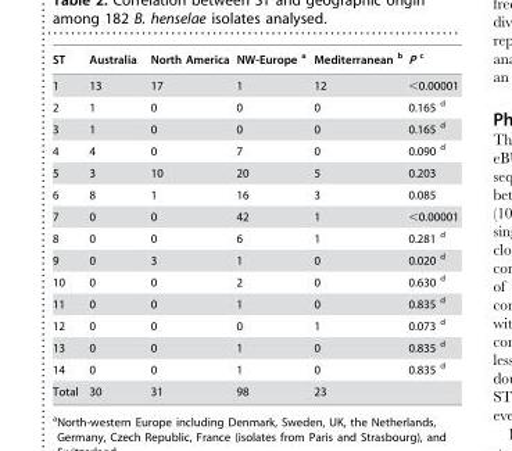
<table><thead><tr><td>ST</td><td>Australia</td><td>North America</td><td>NW-Europe a</td><td>Mediterranean b</td><td>P c</td></tr></thead><tbody><tr><td>1</td><td>13</td><td>17</td><td>1</td><td>12</td><td>&lt;0.00001</td></tr><tr><td>2</td><td>1</td><td>0</td><td>0</td><td>0</td><td>0.165 d</td></tr><tr><td>3</td><td>1</td><td>0</td><td>0</td><td>0</td><td>0.165 d</td></tr><tr><td>4</td><td>4</td><td>0</td><td>7</td><td>0</td><td>0.090 d</td></tr><tr><td>5</td><td>3</td><td>10</td><td>20</td><td>5</td><td>0.203</td></tr><tr><td>6</td><td>8</td><td>1</td><td>16</td><td>3</td><td>0.085</td></tr><tr><td>7</td><td>0</td><td>0</td><td>42</td><td>1</td><td>&lt;0.00001</td></tr><tr><td>8</td><td>0</td><td>0</td><td>6</td><td>1</td><td>0.281 d</td></tr><tr><td>9</td><td>0</td><td>3</td><td>1</td><td>0</td><td>0.020 d</td></tr><tr><td>10</td><td>0</td><td>0</td><td>2</td><td>0</td><td>0.630 d</td></tr><tr><td>11</td><td>0</td><td>0</td><td>1</td><td>0</td><td>0.835 d</td></tr><tr><td>12</td><td>0</td><td>0</td><td>0</td><td>1</td><td>0.073 d</td></tr><tr><td>13</td><td>0</td><td>0</td><td>1</td><td>0</td><td>0.835 d</td></tr><tr><td>14</td><td>0</td><td>0</td><td>1</td><td>0</td><td>0.835 d</td></tr><tr><td>Total</td><td>30</td><td>31</td><td>98</td><td>23</td><td></td></tr></tbody></table>